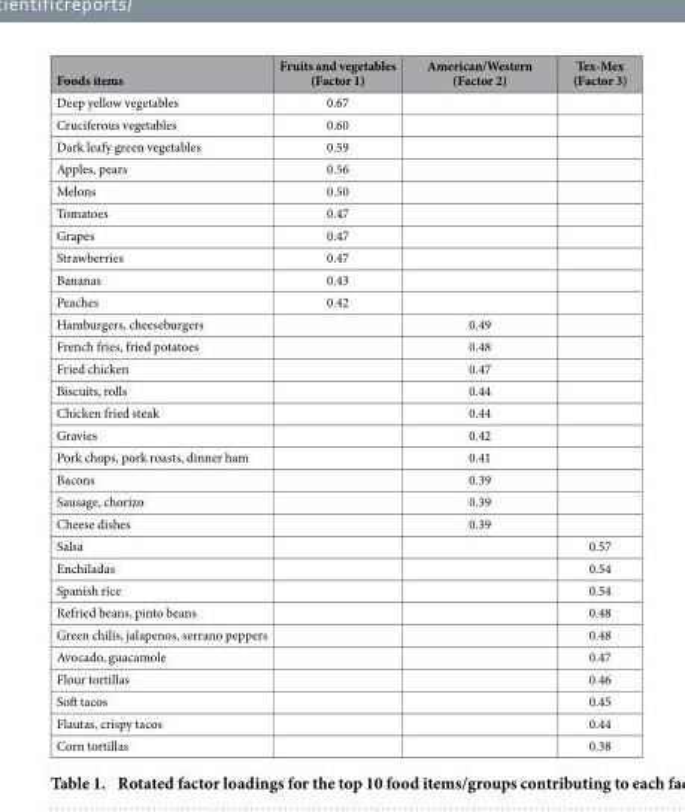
<table><thead><tr><td>Foods items</td><td>Fruits and vegetables (Factor 1)</td><td>American/Western (Factor 2)</td><td>Tex-Mex (Factor 3)</td></tr></thead><tbody><tr><td>Deep yellow vegetables</td><td>0.67</td><td></td><td></td></tr><tr><td>Cruciferous vegetables</td><td>0.60</td><td></td><td></td></tr><tr><td>Dark leafy green vegetables</td><td>0.59</td><td></td><td></td></tr><tr><td>Apples, pears</td><td>0.56</td><td></td><td></td></tr><tr><td>Melons</td><td>0.50</td><td></td><td></td></tr><tr><td>Tomatoes</td><td>0.47</td><td></td><td></td></tr><tr><td>Grapes</td><td>0.47</td><td></td><td></td></tr><tr><td>Strawberries</td><td>0.47</td><td></td><td></td></tr><tr><td>Bananas</td><td>0.43</td><td></td><td></td></tr><tr><td>Peaches</td><td>0.42</td><td></td><td></td></tr><tr><td>Hamburgers, cheeseburgers</td><td></td><td>0.49</td><td></td></tr><tr><td>French fries, fried potatoes</td><td></td><td>0.48</td><td></td></tr><tr><td>Fried chicken</td><td></td><td>0.47</td><td></td></tr><tr><td>Biscuits, rolls</td><td></td><td>0.44</td><td></td></tr><tr><td>Chicken fried steak</td><td></td><td>0.44</td><td></td></tr><tr><td>Gravies</td><td></td><td>0.42</td><td></td></tr><tr><td>Pork chops, pork roasts, dinner ham</td><td></td><td>0.41</td><td></td></tr><tr><td>Bacons</td><td></td><td>0.39</td><td></td></tr><tr><td>Sausage, chorizo</td><td></td><td>0.39</td><td></td></tr><tr><td>Cheese dishes</td><td></td><td>0.39</td><td></td></tr><tr><td>Salsa</td><td></td><td></td><td>0.57</td></tr><tr><td>Enchiladas</td><td></td><td></td><td>0.54</td></tr><tr><td>Spanish rice</td><td></td><td></td><td>0.54</td></tr><tr><td>Refried beans, pinto beans</td><td></td><td></td><td>0.48</td></tr><tr><td>Green chilis, jalapenos, serrano peppers</td><td></td><td></td><td>0.48</td></tr><tr><td>Avocado, guacamole</td><td></td><td></td><td>0.47</td></tr><tr><td>Flour tortillas</td><td></td><td></td><td>0.46</td></tr><tr><td>Soft tacos</td><td></td><td></td><td>0.45</td></tr><tr><td>Flautas, crispy tacos</td><td></td><td></td><td>0.44</td></tr><tr><td>Corn tortillas</td><td></td><td></td><td>0.38</td></tr></tbody></table>